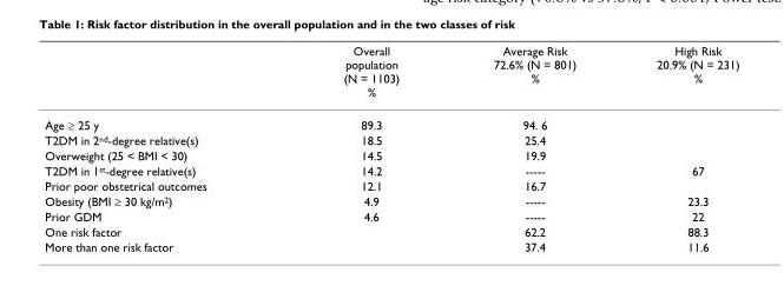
<table><thead><tr><td></td><td>Overall population (N = 1103) %</td><td>Average Risk 72.6% (N = 801) %</td><td>High Risk 20.9% (N = 231) %</td></tr></thead><tbody><tr><td>Age ≥ 25 y</td><td>89.3</td><td>94. 6</td><td></td></tr><tr><td>T2DM in 2<sup>nd</sup>-degree relative(s)</td><td>18.5</td><td>25.4</td><td></td></tr><tr><td>Overweight (25 &lt; BMI &lt; 30)</td><td>14.5</td><td>19.9</td><td></td></tr><tr><td>T2DM in 1<sup>st</sup>-degree relative(s)</td><td>14.2</td><td>-----</td><td>67</td></tr><tr><td>Prior poor obstetrical outcomes</td><td>12.1</td><td>16.7</td><td></td></tr><tr><td>Obesity (BMI ≥ 30 kg/m<sup>2</sup>)</td><td>4.9</td><td>-----</td><td>23.3</td></tr><tr><td>Prior GDM</td><td>4.6</td><td>-----</td><td>22</td></tr><tr><td>One risk factor</td><td></td><td>62.2</td><td>88.3</td></tr><tr><td>More than one risk factor</td><td></td><td>37.4</td><td>11.6</td></tr></tbody></table>